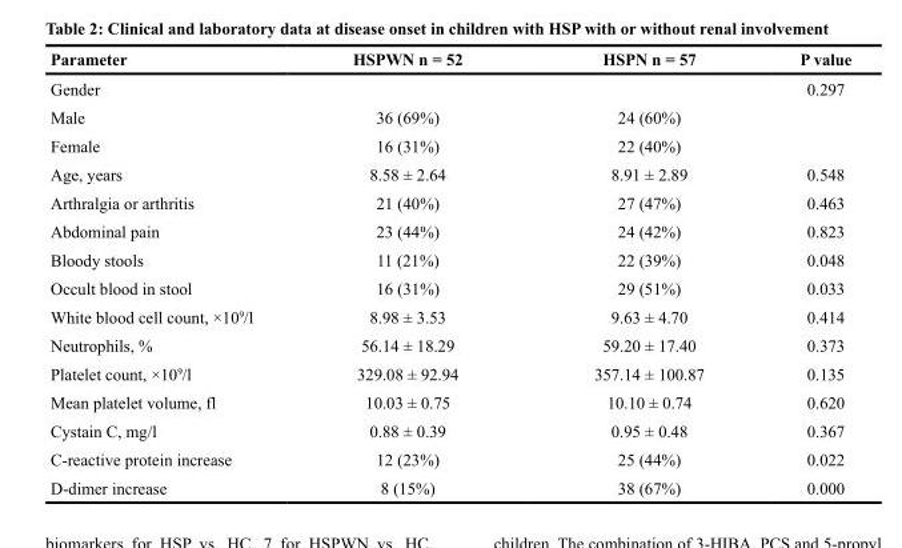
<table><thead><tr><td>Parameter</td><td>HSPWN n = 52</td><td>HSPN n = 57</td><td>P value</td></tr></thead><tbody><tr><td>Gender</td><td></td><td></td><td>0.297</td></tr><tr><td>Male</td><td>36 (69%)</td><td>24 (60%)</td><td></td></tr><tr><td>Female</td><td>16 (31%)</td><td>22 (40%)</td><td></td></tr><tr><td>Age, years</td><td>8.58 ± 2.64</td><td>8.91 ± 2.89</td><td>0.548</td></tr><tr><td>Arthralgia or arthritis</td><td>21 (40%)</td><td>27 (47%)</td><td>0.463</td></tr><tr><td>Abdominal pain</td><td>23 (44%)</td><td>24 (42%)</td><td>0.823</td></tr><tr><td>Bloody stools</td><td>11 (21%)</td><td>22 (39%)</td><td>0.048</td></tr><tr><td>Occult blood in stool</td><td>16 (31%)</td><td>29 (51%)</td><td>0.033</td></tr><tr><td>White blood cell count, ×10<sup>9</sup>/l</td><td>8.98 ± 3.53</td><td>9.63 ± 4.70</td><td>0.414</td></tr><tr><td>Neutrophils, %</td><td>56.14 ± 18.29</td><td>59.20 ± 17.40</td><td>0.373</td></tr><tr><td>Platelet count, ×10<sup>9</sup>/l</td><td>329.08 ± 92.94</td><td>357.14 ± 100.87</td><td>0.135</td></tr><tr><td>Mean platelet volume, fl</td><td>10.03 ± 0.75</td><td>10.10 ± 0.74</td><td>0.620</td></tr><tr><td>Cystain C, mg/l</td><td>0.88 ± 0.39</td><td>0.95 ± 0.48</td><td>0.367</td></tr><tr><td>C-reactive protein increase</td><td>12 (23%)</td><td>25 (44%)</td><td>0.022</td></tr><tr><td>D-dimer increase</td><td>8 (15%)</td><td>38 (67%)</td><td>0.000</td></tr></tbody></table>